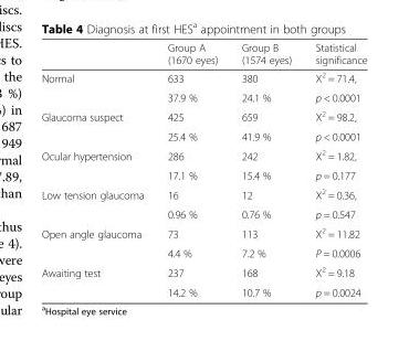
<table><thead><tr><td></td><td>Group A (1670 eyes)</td><td>Group B (1574 eyes)</td><td>Statistical significance</td></tr></thead><tbody><tr><td rowspan="2">Normal</td><td>633</td><td>380</td><td>Χ<sup>2</sup> = 71.4,</td></tr><tr><td>37.9 %</td><td>24.1 %</td><td>p &lt; 0.0001</td></tr><tr><td rowspan="2">Glaucoma suspect</td><td>425</td><td>659</td><td>Χ<sup>2</sup> = 98.2,</td></tr><tr><td>25.4 %</td><td>41.9 %</td><td>p &lt; 0.0001</td></tr><tr><td rowspan="2">Ocular hypertension</td><td>286</td><td>242</td><td>Χ<sup>2</sup> = 1.82,</td></tr><tr><td>17.1 %</td><td>15.4 %</td><td>p = 0.177</td></tr><tr><td rowspan="2">Low tension glaucoma</td><td>16</td><td>12</td><td>Χ<sup>2</sup> = 0.36,</td></tr><tr><td>0.96 %</td><td>0.76 %</td><td>p = 0.547</td></tr><tr><td rowspan="2">Open angle glaucoma</td><td>73</td><td>113</td><td>Χ<sup>2</sup> = 11.82</td></tr><tr><td>4.4 %</td><td>7.2 %</td><td>P = 0.0006</td></tr><tr><td rowspan="2">Awaiting test</td><td>237</td><td>168</td><td>Χ<sup>2</sup> = 9.18</td></tr><tr><td>14.2 %</td><td>10.7 %</td><td>p = 0.0024</td></tr></tbody></table>